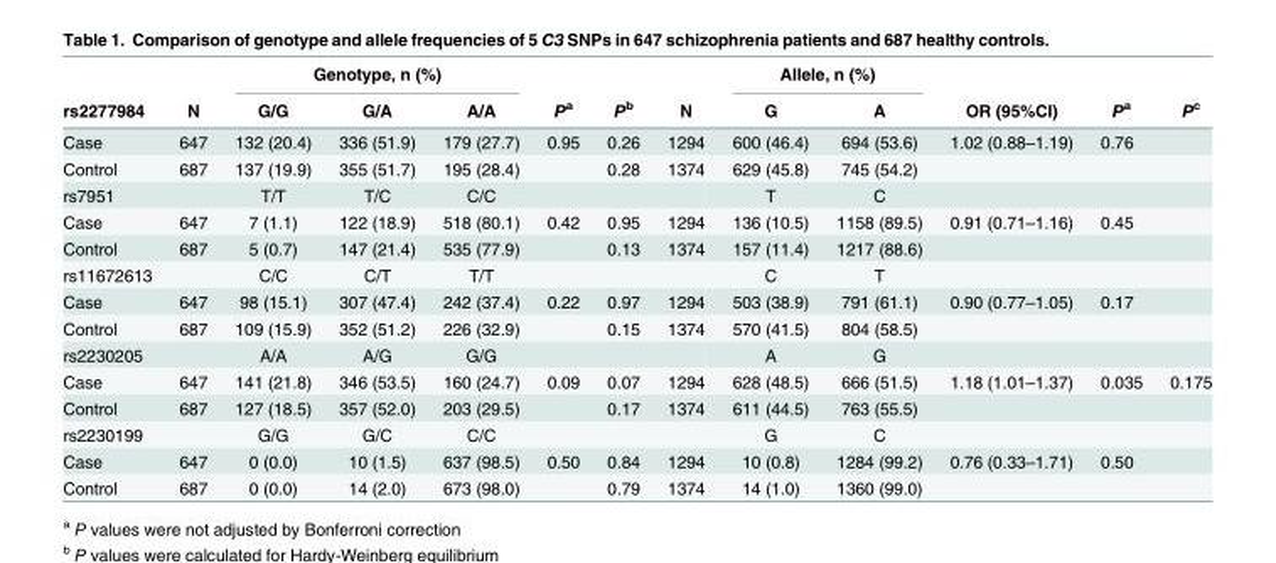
<table><thead><tr><td rowspan="2">rs2277984</td><td rowspan="2">N</td><td colspan="3">Genotype, n (%)</td><td rowspan="2">P<sup>a</sup></td><td rowspan="2">P<sup>b</sup></td><td rowspan="2">N</td><td colspan="2">Allele, n (%)</td><td rowspan="2">OR (95%CI)</td><td rowspan="2">P<sup>a</sup></td><td rowspan="2">P<sup>c</sup></td></tr><tr><td>G/G</td><td>G/A</td><td>A/A</td><td>G</td><td>A</td></tr></thead><tbody><tr><td>Case</td><td>647</td><td>132 (20.4)</td><td>336 (51.9)</td><td>179 (27.7)</td><td>0.95</td><td>0.26</td><td>1294</td><td>600 (46.4)</td><td>694 (53.6)</td><td>1.02 (0.88–1.19)</td><td>0.76</td><td></td></tr><tr><td>Control</td><td>687</td><td>137 (19.9)</td><td>355 (51.7)</td><td>195 (28.4)</td><td></td><td>0.28</td><td>1374</td><td>629 (45.8)</td><td>745 (54.2)</td><td></td><td></td><td></td></tr><tr><td>rs7951</td><td></td><td>T/T</td><td>T/C</td><td>C/C</td><td></td><td></td><td></td><td>T</td><td>C</td><td></td><td></td><td></td></tr><tr><td>Case</td><td>647</td><td>7 (1.1)</td><td>122 (18.9)</td><td>518 (80.1)</td><td>0.42</td><td>0.95</td><td>1294</td><td>136 (10.5)</td><td>1158 (89.5)</td><td>0.91 (0.71–1.16)</td><td>0.45</td><td></td></tr><tr><td>Control</td><td>687</td><td>5 (0.7)</td><td>147 (21.4)</td><td>535 (77.9)</td><td></td><td>0.13</td><td>1374</td><td>157 (11.4)</td><td>1217 (88.6)</td><td></td><td></td><td></td></tr><tr><td>rs11672613</td><td></td><td>C/C</td><td>C/T</td><td>T/T</td><td></td><td></td><td></td><td>C</td><td>T</td><td></td><td></td><td></td></tr><tr><td>Case</td><td>647</td><td>98 (15.1)</td><td>307 (47.4)</td><td>242 (37.4)</td><td>0.22</td><td>0.97</td><td>1294</td><td>503 (38.9)</td><td>791 (61.1)</td><td>0.90 (0.77–1.05)</td><td>0.17</td><td></td></tr><tr><td>Control</td><td>687</td><td>109 (15.9)</td><td>352 (51.2)</td><td>226 (32.9)</td><td></td><td>0.15</td><td>1374</td><td>570 (41.5)</td><td>804 (58.5)</td><td></td><td></td><td></td></tr><tr><td>rs2230205</td><td></td><td>A/A</td><td>A/G</td><td>G/G</td><td></td><td></td><td></td><td>A</td><td>G</td><td></td><td></td><td></td></tr><tr><td>Case</td><td>647</td><td>141 (21.8)</td><td>346 (53.5)</td><td>160 (24.7)</td><td>0.09</td><td>0.07</td><td>1294</td><td>628 (48.5)</td><td>666 (51.5)</td><td>1.18 (1.01–1.37)</td><td>0.035</td><td>0.175</td></tr><tr><td>Control</td><td>687</td><td>127 (18.5)</td><td>357 (52.0)</td><td>203 (29.5)</td><td></td><td>0.17</td><td>1374</td><td>611 (44.5)</td><td>763 (55.5)</td><td></td><td></td><td></td></tr><tr><td>rs2230199</td><td></td><td>G/G</td><td>G/C</td><td>C/C</td><td></td><td></td><td></td><td>G</td><td>C</td><td></td><td></td><td></td></tr><tr><td>Case</td><td>647</td><td>0 (0.0)</td><td>10 (1.5)</td><td>637 (98.5)</td><td>0.50</td><td>0.84</td><td>1294</td><td>10 (0.8)</td><td>1284 (99.2)</td><td>0.76 (0.33–1.71)</td><td>0.50</td><td></td></tr><tr><td>Control</td><td>687</td><td>0 (0.0)</td><td>14 (2.0)</td><td>673 (98.0)</td><td></td><td>0.79</td><td>1374</td><td>14 (1.0)</td><td>1360 (99.0)</td><td></td><td></td><td></td></tr></tbody></table>